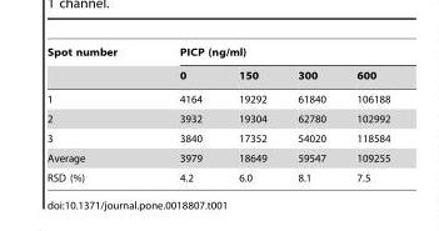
<table><thead><tr><td rowspan="2">Spot number</td><td colspan="4">PICP (ng/ml)</td></tr><tr><td>0</td><td>150</td><td>300</td><td>600</td></tr></thead><tbody><tr><td>1</td><td>4164</td><td>19292</td><td>61840</td><td>106188</td></tr><tr><td>2</td><td>3932</td><td>19304</td><td>62780</td><td>102992</td></tr><tr><td>3</td><td>3840</td><td>17352</td><td>54020</td><td>118584</td></tr><tr><td>Average</td><td>3979</td><td>18649</td><td>59547</td><td>109255</td></tr><tr><td>RSD (%)</td><td>4.2</td><td>6.0</td><td>8.1</td><td>7.5</td></tr></tbody></table>